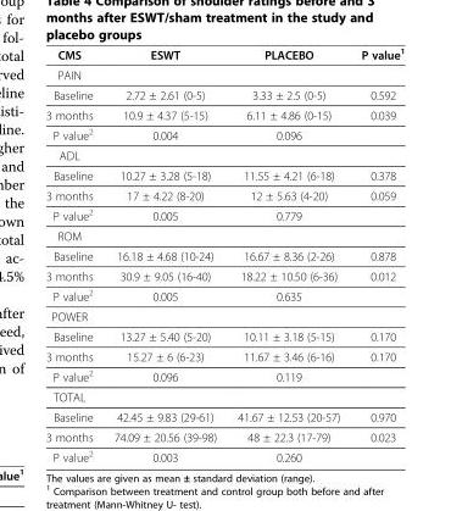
<table><thead><tr><td>CMS</td><td>ESWT</td><td>PLACEBO</td><td>P value<sup>1</sup></td></tr></thead><tbody><tr><td colspan="4">PAIN</td></tr><tr><td>Baseline</td><td>2.72 ± 2.61 (0-5)</td><td>3.33 ± 2.5 (0-5)</td><td>0.592</td></tr><tr><td>3 months</td><td>10.9 ± 4.37 (5-15)</td><td>6.11 ± 4.86 (0-15)</td><td>0.039</td></tr><tr><td>P value<sup>2</sup></td><td>0.004</td><td>0.096</td><td></td></tr><tr><td colspan="4">ADL</td></tr><tr><td>Baseline</td><td>10.27 ± 3.28 (5-18)</td><td>11.55 ± 4.21 (6-18)</td><td>0.378</td></tr><tr><td>3 months</td><td>17 ± 4.22 (8-20)</td><td>12 ± 5.63 (4-20)</td><td>0.059</td></tr><tr><td>P value<sup>2</sup></td><td>0.005</td><td>0.779</td><td></td></tr><tr><td colspan="4">ROM</td></tr><tr><td>Baseline</td><td>16.18 ± 4.68 (10-24)</td><td>16.67 ± 8.36 (2-26)</td><td>0.878</td></tr><tr><td>3 months</td><td>30.9 ± 9.05 (16-40)</td><td>18.22 ± 10.50 (6-36)</td><td>0.012</td></tr><tr><td>P value<sup>2</sup></td><td>0.005</td><td>0.635</td><td></td></tr><tr><td colspan="4">POWER</td></tr><tr><td>Baseline</td><td>13.27 ± 5.40 (5-20)</td><td>10.11 ± 3.18 (5-15)</td><td>0.170</td></tr><tr><td>3 months</td><td>15.27 ± 6 (6-23)</td><td>11.67 ± 3.46 (6-16)</td><td>0.170</td></tr><tr><td>P value<sup>2</sup></td><td>0.096</td><td>0.119</td><td></td></tr><tr><td colspan="4">TOTAL</td></tr><tr><td>Baseline</td><td>42.45 ± 9.83 (29-61)</td><td>41.67 ± 12.53 (20-57)</td><td>0.970</td></tr><tr><td>3 months</td><td>74.09 ± 20.56 (39-98)</td><td>48 ± 22.3 (17-79)</td><td>0.023</td></tr><tr><td>P value<sup>2</sup></td><td>0.003</td><td>0.260</td><td></td></tr></tbody></table>